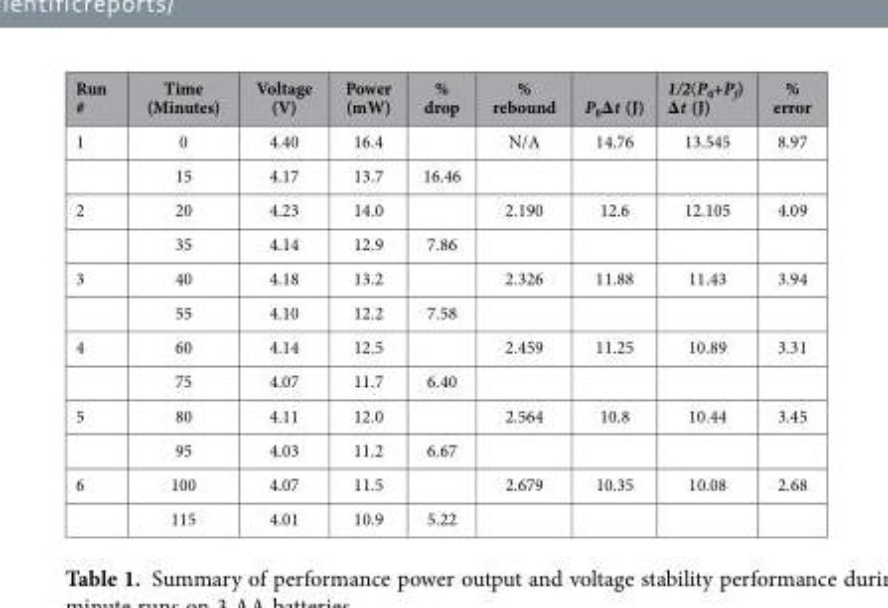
<table><thead><tr><td>Run #</td><td>Time (Minutes)</td><td>Voltage (V)</td><td>Power (mW)</td><td>% drop</td><td>% rebound</td><td>P<sub>0</sub>Δt (J)</td><td>1/2(P<sub>0</sub>+P<sub>f</sub>) Δt (J)</td><td>% error</td></tr></thead><tbody><tr><td rowspan="2">1</td><td>0</td><td>4.40</td><td>16.4</td><td></td><td>N/A</td><td>14.76</td><td>13.545</td><td>8.97</td></tr><tr><td>15</td><td>4.17</td><td>13.7</td><td>16.46</td><td></td><td></td><td></td><td></td></tr><tr><td rowspan="2">2</td><td>20</td><td>4.23</td><td>14.0</td><td></td><td>2.190</td><td>12.6</td><td>12.105</td><td>4.09</td></tr><tr><td>35</td><td>4.14</td><td>12.9</td><td>7.86</td><td></td><td></td><td></td><td></td></tr><tr><td rowspan="2">3</td><td>40</td><td>4.18</td><td>13.2</td><td></td><td>2.326</td><td>11.88</td><td>11.43</td><td>3.94</td></tr><tr><td>55</td><td>4.10</td><td>12.2</td><td>7.58</td><td></td><td></td><td></td><td></td></tr><tr><td rowspan="2">4</td><td>60</td><td>4.14</td><td>12.5</td><td></td><td>2.459</td><td>11.25</td><td>10.89</td><td>3.31</td></tr><tr><td>75</td><td>4.07</td><td>11.7</td><td>6.40</td><td></td><td></td><td></td><td></td></tr><tr><td rowspan="2">5</td><td>80</td><td>4.11</td><td>12.0</td><td></td><td>2.564</td><td>10.8</td><td>10.44</td><td>3.45</td></tr><tr><td>95</td><td>4.03</td><td>11.2</td><td>6.67</td><td></td><td></td><td></td><td></td></tr><tr><td rowspan="2">6</td><td>100</td><td>4.07</td><td>11.5</td><td></td><td>2.679</td><td>10.35</td><td>10.08</td><td>2.68</td></tr><tr><td>115</td><td>4.01</td><td>10.9</td><td>5.22</td><td></td><td></td><td></td><td></td></tr></tbody></table>